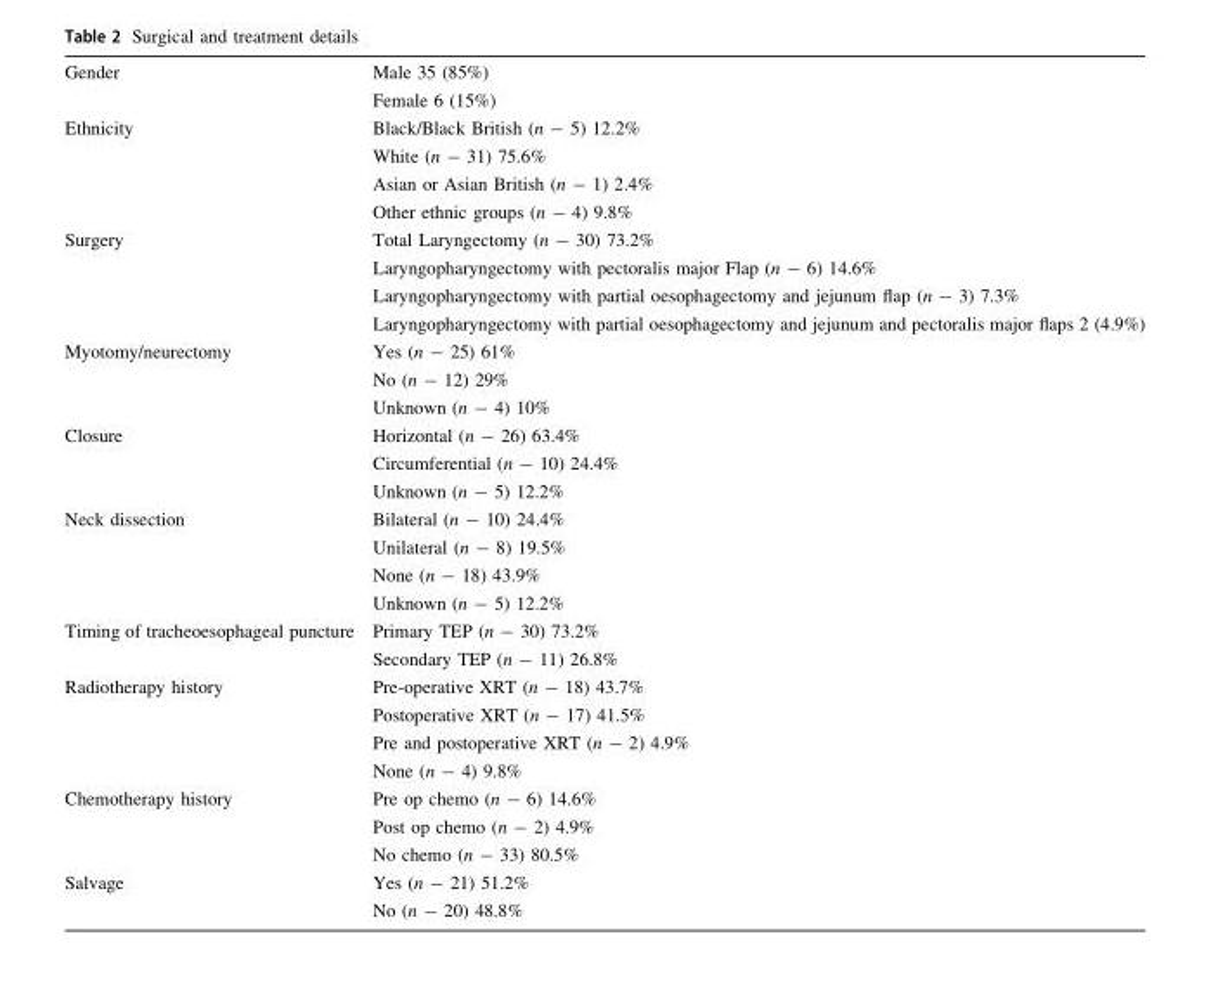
<table><tbody><tr><td>Gender</td><td>Male 35 (85%) Female 6 (15%)</td></tr><tr><td>Ethnicity</td><td>Black/Black British (n - 5) 12.2% White (n - 31) 75.6% Asian or Asian British (n - 1) 2.4% Other ethnic groups (n - 4) 9.8%</td></tr><tr><td>Surgery</td><td>Total Laryngectomy (n - 30) 73.2% Laryngopharyngectomy with pectoralis major Flap (n - 6) 14.6% Laryngopharyngectomy with partial oesophagectomy and jejunum flap (n - 3) 7.3% Laryngopharyngectomy with partial oesophagectomy and jejunum and pectoralis major flaps 2 (4.9%)</td></tr><tr><td>Myotomy/neurectomy</td><td>Yes (n - 25) 61% No (n - 12) 29% Unknown (n - 4) 10%</td></tr><tr><td>Closure</td><td>Horizontal (n - 26) 63.4% Circumferential (n - 10) 24.4% Unknown (n - 5) 12.2%</td></tr><tr><td>Neck dissection</td><td>Bilateral (n - 10) 24.4% Unilateral (n - 8) 19.5% None (n - 18) 43.9% Unknown (n - 5) 12.2%</td></tr><tr><td>Timing of tracheoesophageal puncture</td><td>Primary TEP (n - 30) 73.2% Secondary TEP (n - 11) 26.8%</td></tr><tr><td>Radiotherapy history</td><td>Pre-operative XRT (n - 18) 43.7% Postoperative XRT (n - 17) 41.5% Pre and postoperative XRT (n - 2) 4.9% None (n - 4) 9.8%</td></tr><tr><td>Chemotherapy history</td><td>Pre op chemo (n - 6) 14.6% Post op chemo (n - 2) 4.9% No chemo (n - 33) 80.5%</td></tr><tr><td>Salvage</td><td>Yes (n - 21) 51.2% No (n - 20) 48.8%</td></tr></tbody></table>